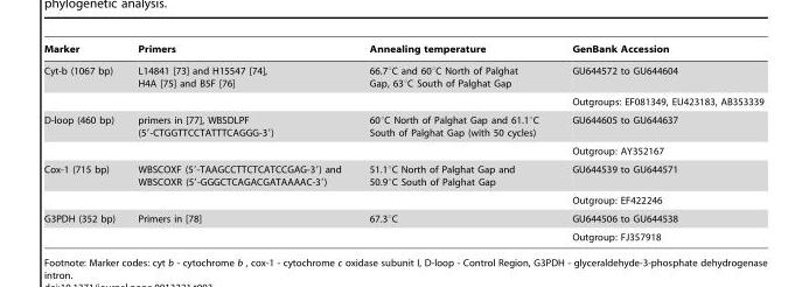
<table><thead><tr><td>Marker</td><td>Primers</td><td>Annealing temperature</td><td>GenBank Accession</td></tr></thead><tbody><tr><td rowspan="2">Cyt-b (1067 bp)</td><td>L14841 [73] and H15547 [74], H4A [75] and B5F [76]</td><td>66.7°C and 60°C North of Palghat Gap, 63°C South of Palghat Gap</td><td>GU644572 to GU644604</td></tr><tr><td></td><td></td><td>Outgroups: EF081349, EU423183, AB353339</td></tr><tr><td rowspan="2">D-loop (460 bp)</td><td>primers in [77], WBSDLPF (5′-CTGGTTCCTATTTCAGGG-3′)</td><td>60°C North of Palghat Gap and 61.1°C South of Palghat Gap (with 50 cycles)</td><td>GU644605 to GU644637</td></tr><tr><td></td><td></td><td>Outgroup: AY352167</td></tr><tr><td rowspan="2">Cox-1 (715 bp)</td><td>WBSCOXF (5′-TAAGCCTTCTCATCCGAG-3′) and WBSCOXR (5′-GGGCTCAGACGATAAAAC-3′)</td><td>51.1°C North of Palghat Gap and 50.9°C South of Palghat Gap</td><td>GU644539 to GU644571</td></tr><tr><td></td><td></td><td>Outgroup: EF422246</td></tr><tr><td rowspan="2">G3PDH (352 bp)</td><td>Primers in [78]</td><td>67.3°C</td><td>GU644506 to GU644538</td></tr><tr><td></td><td></td><td>Outgroup: FJ357918</td></tr></tbody></table>